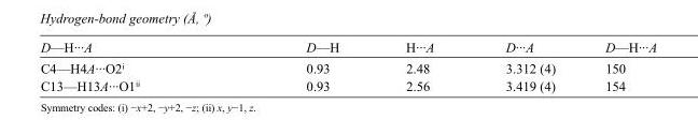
<table><tbody><tr><td>D—H···A</td><td>D—H</td><td>H···A</td><td>D···A</td><td>D—H···A</td></tr><tr><td>C4—H4A···O2<sup>i</sup></td><td>0.93</td><td>2.48</td><td>3.312 (4)</td><td>150</td></tr><tr><td>C13—H13A···O1<sup>ii</sup></td><td>0.93</td><td>2.56</td><td>3.419 (4)</td><td>154</td></tr></tbody></table>